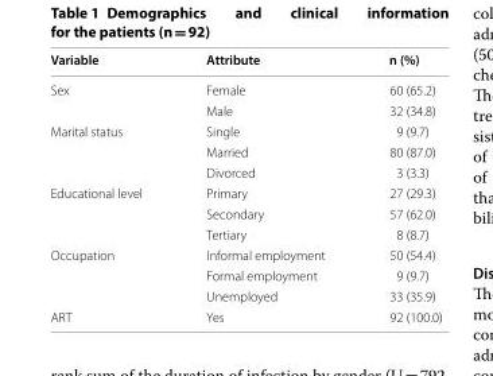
<table><thead><tr><td>Variable</td><td>Attribute</td><td>n (%)</td></tr></thead><tbody><tr><td rowspan="2">Sex</td><td>Female</td><td>60 (65.2)</td></tr><tr><td>Male</td><td>32 (34.8)</td></tr><tr><td rowspan="3">Marital status</td><td>Single</td><td>9 (9.7)</td></tr><tr><td>Married</td><td>80 (87.0)</td></tr><tr><td>Divorced</td><td>3 (3.3)</td></tr><tr><td rowspan="3">Educational level</td><td>Primary</td><td>27 (29.3)</td></tr><tr><td>Secondary</td><td>57 (62.0)</td></tr><tr><td>Tertiary</td><td>8 (8.7)</td></tr><tr><td rowspan="3">Occupation</td><td>Informal employment</td><td>50 (54.4)</td></tr><tr><td>Formal employment</td><td>9 (9.7)</td></tr><tr><td>Unemployed</td><td>33 (35.9)</td></tr><tr><td>ART</td><td>Yes</td><td>92 (100.0)</td></tr></tbody></table>